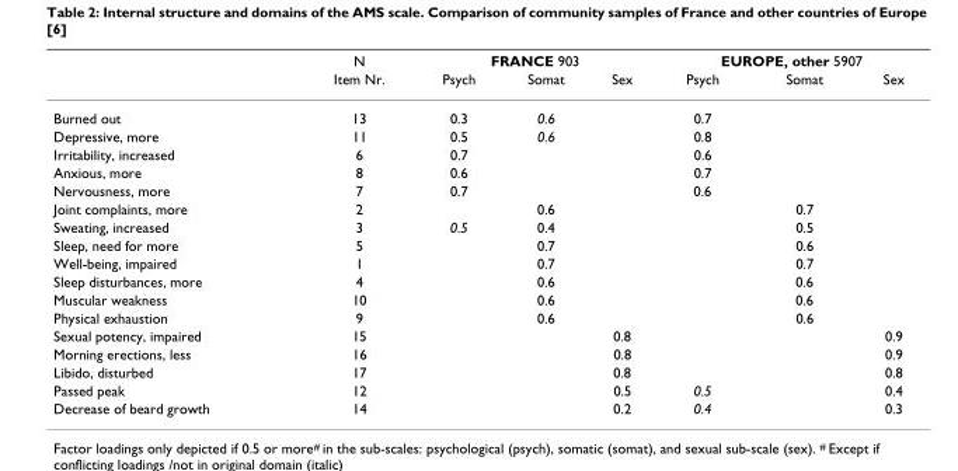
<table><thead><tr><td rowspan="2"></td><td rowspan="2">N Item Nr.</td><td colspan="3">FRANCE 903</td><td colspan="3">EUROPE, other 5907</td></tr><tr><td>Psych</td><td>Somat</td><td>Sex</td><td>Psych</td><td>Somat</td><td>Sex</td></tr></thead><tbody><tr><td>Burned out</td><td>13</td><td>0.3</td><td>0.6</td><td></td><td>0.7</td><td></td><td></td></tr><tr><td>Depressive, more</td><td>11</td><td>0.5</td><td>0.6</td><td></td><td>0.8</td><td></td><td></td></tr><tr><td>Irritability, increased</td><td>6</td><td>0.7</td><td></td><td></td><td>0.6</td><td></td><td></td></tr><tr><td>Anxious, more</td><td>8</td><td>0.6</td><td></td><td></td><td>0.7</td><td></td><td></td></tr><tr><td>Nervousness, more</td><td>7</td><td>0.7</td><td></td><td></td><td>0.6</td><td></td><td></td></tr><tr><td>Joint complaints, more</td><td>2</td><td></td><td>0.6</td><td></td><td></td><td>0.7</td><td></td></tr><tr><td>Sweating, increased</td><td>3</td><td>0.5</td><td>0.4</td><td></td><td></td><td>0.5</td><td></td></tr><tr><td>Sleep, need for more</td><td>5</td><td></td><td>0.7</td><td></td><td></td><td>0.6</td><td></td></tr><tr><td>Well-being, impaired</td><td>1</td><td></td><td>0.7</td><td></td><td></td><td>0.7</td><td></td></tr><tr><td>Sleep disturbances, more</td><td>4</td><td></td><td>0.6</td><td></td><td></td><td>0.6</td><td></td></tr><tr><td>Muscular weakness</td><td>10</td><td></td><td>0.6</td><td></td><td></td><td>0.6</td><td></td></tr><tr><td>Physical exhaustion</td><td>9</td><td></td><td>0.6</td><td></td><td></td><td>0.6</td><td></td></tr><tr><td>Sexual potency, impaired</td><td>15</td><td></td><td></td><td>0.8</td><td></td><td></td><td>0.9</td></tr><tr><td>Morning erections, less</td><td>16</td><td></td><td></td><td>0.8</td><td></td><td></td><td>0.9</td></tr><tr><td>Libido, disturbed</td><td>17</td><td></td><td></td><td>0.8</td><td></td><td></td><td>0.8</td></tr><tr><td>Passed peak</td><td>12</td><td></td><td></td><td>0.5</td><td>0.5</td><td></td><td>0.4</td></tr><tr><td>Decrease of beard growth</td><td>14</td><td></td><td></td><td>0.2</td><td>0.4</td><td></td><td>0.3</td></tr></tbody></table>